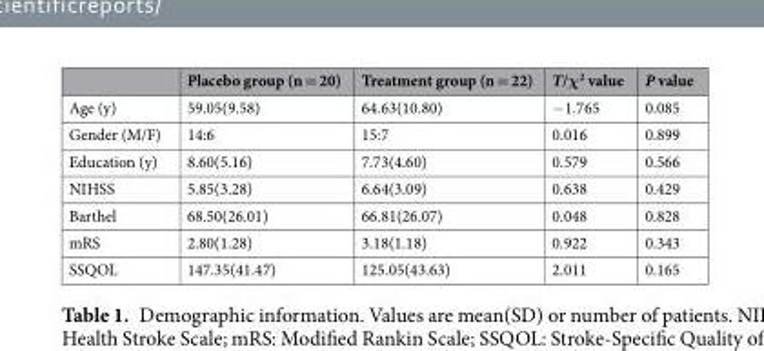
<table><thead><tr><td></td><td>Placebo group (n = 20)</td><td>Treatment group (n = 22)</td><td>T/χ<sup>2</sup> value</td><td>P value</td></tr></thead><tbody><tr><td>Age (y)</td><td>59.05(9.58)</td><td>64.63(10.80)</td><td>−1.765</td><td>0.085</td></tr><tr><td>Gender (M/F)</td><td>14:6</td><td>15:7</td><td>0.016</td><td>0.899</td></tr><tr><td>Education (y)</td><td>8.60(5.16)</td><td>7.73(4.60)</td><td>0.579</td><td>0.566</td></tr><tr><td>NIHSS</td><td>5.85(3.28)</td><td>6.64(3.09)</td><td>0.638</td><td>0.429</td></tr><tr><td>Barthel</td><td>68.50(26.01)</td><td>66.81(26.07)</td><td>0.048</td><td>0.828</td></tr><tr><td>mRS</td><td>2.80(1.28)</td><td>3.18(1.18)</td><td>0.922</td><td>0.343</td></tr><tr><td>SSQOL</td><td>147.35(41.47)</td><td>125.05(43.63)</td><td>2.011</td><td>0.165</td></tr></tbody></table>